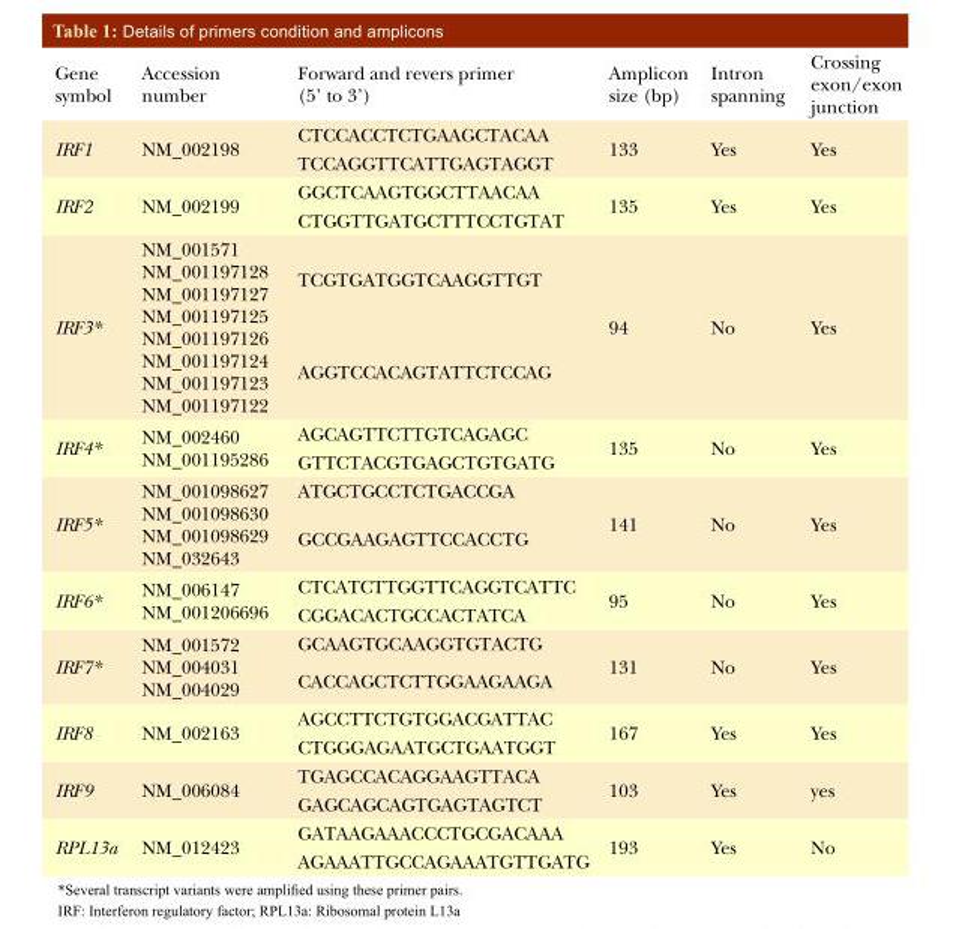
<table><thead><tr><td>Gene symbol</td><td>Accession number</td><td>Forward and revers primer (5’ to 3’)</td><td>Amplicon size (bp)</td><td>Intron spanning</td><td>Crossing exon/exon junction</td></tr></thead><tbody><tr><td rowspan="2">IRF1</td><td rowspan="2">NM_002198</td><td>CTCCACCTCTGAAGCTACAA</td><td rowspan="2">133</td><td rowspan="2">Yes</td><td rowspan="2">Yes</td></tr><tr><td>TCCAGGTTCATTGAGTAGGT</td></tr><tr><td rowspan="2">IRF2</td><td rowspan="2">NM_002199</td><td>GGCTCAAGTGGCTTAACAA</td><td rowspan="2">135</td><td rowspan="2">Yes</td><td rowspan="2">Yes</td></tr><tr><td>CTGGTTGATGCTTTCCTGTAT</td></tr><tr><td rowspan="2">IRF3*</td><td rowspan="2">NM_001571 NM_001197128 NM_001197127 NM_001197125 NM_001197126 NM_001197124 NM_001197123 NM_001197122</td><td>TCGTGATGGTCAAGGTTGT</td><td rowspan="2">94</td><td rowspan="2">No</td><td rowspan="2">Yes</td></tr><tr><td>AGGTCCACAGTATTCTCCAG</td></tr><tr><td rowspan="2">IRF4*</td><td rowspan="2">NM_002460 NM_001195286</td><td>AGCAGTTCTTGTCAGAGC</td><td rowspan="2">135</td><td rowspan="2">No</td><td rowspan="2">Yes</td></tr><tr><td>GTTCTACGTGAGCTGTGATG</td></tr><tr><td rowspan="2">IRF5*</td><td rowspan="2">NM_001098627 NM_001098630 NM_001098629 NM_032643</td><td>ATGCTGCCTCTGACCGA</td><td rowspan="2">141</td><td rowspan="2">No</td><td rowspan="2">Yes</td></tr><tr><td>GCCGAAGAGTTCCACCTG</td></tr><tr><td rowspan="2">IRF6*</td><td rowspan="2">NM_006147 NM_001206696</td><td>CTCATCTTGGTTCAGGTCATTC</td><td rowspan="2">95</td><td rowspan="2">No</td><td rowspan="2">Yes</td></tr><tr><td>CGGACACTGCCACTATCA</td></tr><tr><td rowspan="2">IRF7*</td><td rowspan="2">NM_001572 NM_004031 NM_004029</td><td>GCAAGTGCAAGGTGTACTG</td><td rowspan="2">131</td><td rowspan="2">No</td><td rowspan="2">Yes</td></tr><tr><td>CACCAGCTCTTGGAAGAAGA</td></tr><tr><td rowspan="2">IRF8</td><td rowspan="2">NM_002163</td><td>AGCCTTCTGTGGACGATTAC</td><td rowspan="2">167</td><td rowspan="2">Yes</td><td rowspan="2">Yes</td></tr><tr><td>CTGGGAGAATGCTGAATGGT</td></tr><tr><td rowspan="2">IRF9</td><td rowspan="2">NM_006084</td><td>TGAGCCACAGGAAGTTACA</td><td rowspan="2">103</td><td rowspan="2">Yes</td><td rowspan="2">yes</td></tr><tr><td>GAGCAGCAGTGAGTAGTCT</td></tr><tr><td rowspan="2">RPL13a</td><td rowspan="2">NM_012423</td><td>GATAAGAAACCCTGCGACAAA</td><td rowspan="2">193</td><td rowspan="2">Yes</td><td rowspan="2">No</td></tr><tr><td>AGAAATTGCCAGAAATGTTGATG</td></tr></tbody></table>